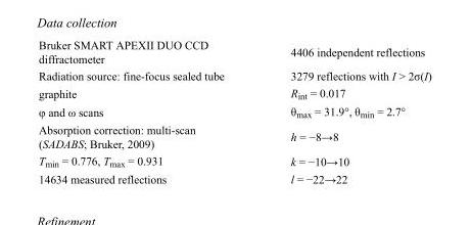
<table><tbody><tr><td>Bruker SMART APEXII DUO CCD diffractometer</td><td>4406 independent reflections</td></tr><tr><td>Radiation source: fine-focus sealed tube</td><td>3279 reflections with I &gt; 2σ(I)</td></tr><tr><td>graphite</td><td>R<sub>int</sub> = 0.017</td></tr><tr><td>φ and ω scans</td><td>θ<sub>max</sub> = 31.9°, θ<sub>min</sub> = 2.7°</td></tr><tr><td>Absorption correction: multi-scan (SADABS; Bruker, 2009)</td><td>h = −8→8</td></tr><tr><td>T<sub>min</sub> = 0.776, T<sub>max</sub> = 0.931</td><td>k = −10→10</td></tr><tr><td>14634 measured reflections</td><td>l = −22→22</td></tr></tbody></table>